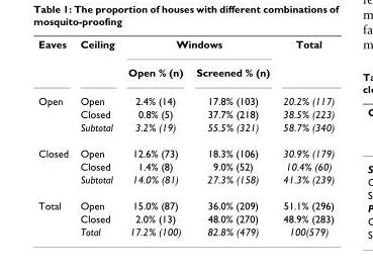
<table><tbody><tr><td rowspan="2">Eaves</td><td>Ceiling</td><td colspan="2">Windows</td><td>Total</td></tr><tr><td></td><td>Open % (n)</td><td>Screened % (n)</td><td></td></tr><tr><td rowspan="3">Open</td><td>Open</td><td>2.4% (14)</td><td>17.8% (103)</td><td>20.2% (117)</td></tr><tr><td>Closed</td><td>0.8% (5)</td><td>37.7% (218)</td><td>38.5% (223)</td></tr><tr><td>Subtotal</td><td>3.2% (19)</td><td>55.5% (321)</td><td>58.7% (340)</td></tr><tr><td rowspan="3">Closed</td><td>Open</td><td>12.6% (73)</td><td>18.3% (106)</td><td>30.9% (179)</td></tr><tr><td>Closed</td><td>1.4% (8)</td><td>9.0% (52)</td><td>10.4% (60)</td></tr><tr><td>Subtotal</td><td>14.0% (81)</td><td>27.3% (158)</td><td>41.3% (239)</td></tr><tr><td rowspan="3">Total</td><td>Open</td><td>15.0% (87)</td><td>36.0% (209)</td><td>51.1% (296)</td></tr><tr><td>Closed</td><td>2.0% (13)</td><td>48.0% (270)</td><td>48.9% (283)</td></tr><tr><td>Total</td><td>17.2% (100)</td><td>82.8% (479)</td><td>100(579)</td></tr></tbody></table>